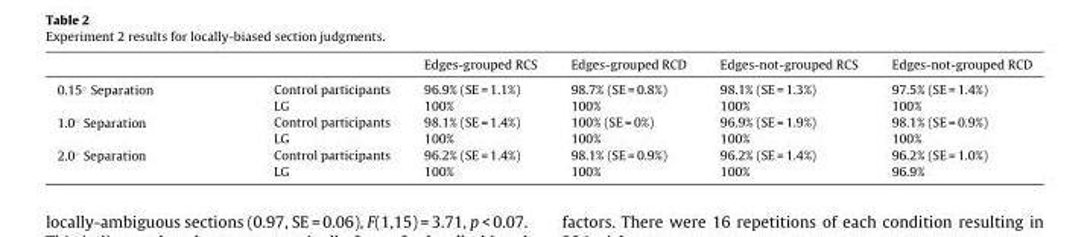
<table><thead><tr><td></td><td></td><td>Edges-grouped RCS</td><td>Edges-grouped RCD</td><td>Edges-not-grouped RCS</td><td>Edges-not-grouped RCD</td></tr></thead><tbody><tr><td rowspan="2">0.15◦ Separation</td><td>Control participants</td><td>96.9% (SE = 1.1%)</td><td>98.7% (SE = 0.8%)</td><td>98.1% (SE = 1.3%)</td><td>97.5% (SE = 1.4%)</td></tr><tr><td>LG</td><td>100%</td><td>100%</td><td>100%</td><td>100%</td></tr><tr><td rowspan="2">1.0◦ Separation</td><td>Control participants</td><td>98.1% (SE = 1.4%)</td><td>100% (SE = 0%)</td><td>96.9% (SE = 1.9%)</td><td>98.1% (SE = 0.9%)</td></tr><tr><td>LG</td><td>100%</td><td>100%</td><td>100%</td><td>100%</td></tr><tr><td rowspan="2">2.0◦ Separation</td><td>Control participants</td><td>96.2% (SE = 1.4%)</td><td>98.1% (SE = 0.9%)</td><td>96.2% (SE = 1.4%)</td><td>96.2% (SE = 1.0%)</td></tr><tr><td>LG</td><td>100%</td><td>100%</td><td>100%</td><td>96.9%</td></tr></tbody></table>